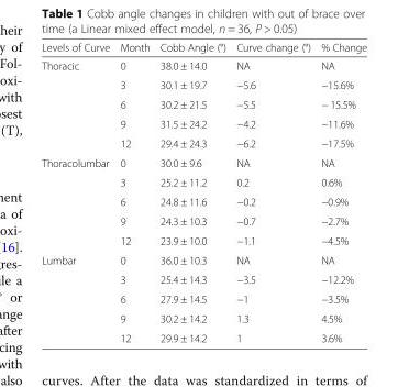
<table><thead><tr><td>Levels of Curve</td><td>Month</td><td>Cobb Angle (°)</td><td>Curve change (°)</td><td>% Change</td></tr></thead><tbody><tr><td rowspan="5">Thoracic</td><td>0</td><td>38.0 ± 14.0</td><td>NA</td><td>NA</td></tr><tr><td>3</td><td>30.1 ± 19.7</td><td>−5.6</td><td>−15.6%</td></tr><tr><td>6</td><td>30.2 ± 21.5</td><td>−5.5</td><td>− 15.5%</td></tr><tr><td>9</td><td>31.5 ± 24.2</td><td>−4.2</td><td>−11.6%</td></tr><tr><td>12</td><td>29.4 ± 24.3</td><td>−6.2</td><td>−17.5%</td></tr><tr><td rowspan="5">Thoracolumbar</td><td>0</td><td>30.0 ± 9.6</td><td>NA</td><td>NA</td></tr><tr><td>3</td><td>25.2 ± 11.2</td><td>0.2</td><td>0.6%</td></tr><tr><td>6</td><td>24.8 ± 11.6</td><td>−0.2</td><td>−0.9%</td></tr><tr><td>9</td><td>24.3 ± 10.3</td><td>−0.7</td><td>−2.7%</td></tr><tr><td>12</td><td>23.9 ± 10.0</td><td>−1.1</td><td>−4.5%</td></tr><tr><td rowspan="5">Lumbar</td><td>0</td><td>36.0 ± 10.3</td><td>NA</td><td>NA</td></tr><tr><td>3</td><td>25.4 ± 14.3</td><td>−3.5</td><td>−12.2%</td></tr><tr><td>6</td><td>27.9 ± 14.5</td><td>−1</td><td>−3.5%</td></tr><tr><td>9</td><td>30.2 ± 14.2</td><td>1.3</td><td>4.5%</td></tr><tr><td>12</td><td>29.9 ± 14.2</td><td>1</td><td>3.6%</td></tr></tbody></table>